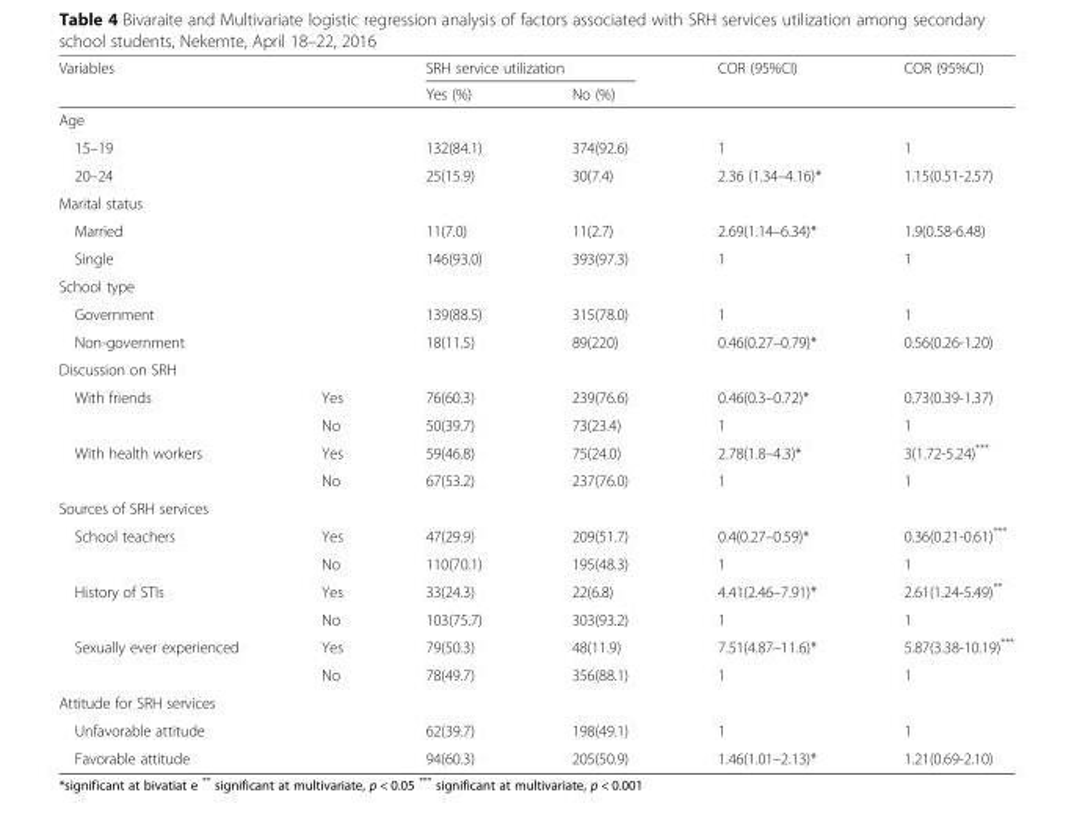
<table><thead><tr><td rowspan="2" colspan="2">Variables</td><td colspan="2">SRH service utilization</td><td rowspan="2">COR (95%CI)</td><td rowspan="2">COR (95%CI)</td></tr><tr><td>Yes (%)</td><td>No (%)</td></tr></thead><tbody><tr><td colspan="6">Age</td></tr><tr><td colspan="2">15–19</td><td>132(84.1)</td><td>374(92.6)</td><td>1</td><td>1</td></tr><tr><td colspan="2">20–24</td><td>25(15.9)</td><td>30(7.4)</td><td>2.36 (1.34–4.16)*</td><td>1.15(0.51-2.57)</td></tr><tr><td colspan="6">Marital status</td></tr><tr><td colspan="2">Married</td><td>11(7.0)</td><td>11(2.7)</td><td>2.69(1.14–6.34)*</td><td>1.9(0.58-6.48)</td></tr><tr><td colspan="2">Single</td><td>146(93.0)</td><td>393(97.3)</td><td>1</td><td>1</td></tr><tr><td colspan="6">School type</td></tr><tr><td colspan="2">Government</td><td>139(88.5)</td><td>315(78.0)</td><td>1</td><td>1</td></tr><tr><td colspan="2">Non-government</td><td>18(11.5)</td><td>89(220)</td><td>0.46(0.27–0.79)*</td><td>0.56(0.26-1.20)</td></tr><tr><td colspan="6">Discussion on SRH</td></tr><tr><td rowspan="2">With friends</td><td>Yes</td><td>76(60.3)</td><td>239(76.6)</td><td>0.46(0.3–0.72)*</td><td>0.73(0.39-1.37)</td></tr><tr><td>No</td><td>50(39.7)</td><td>73(23.4)</td><td>1</td><td>1</td></tr><tr><td rowspan="2">With health workers</td><td>Yes</td><td>59(46.8)</td><td>75(24.0)</td><td>2.78(1.8–4.3)*</td><td>3(1.72-5.24)***</td></tr><tr><td>No</td><td>67(53.2)</td><td>237(76.0)</td><td>1</td><td>1</td></tr><tr><td colspan="6">Sources of SRH services</td></tr><tr><td rowspan="2">School teachers</td><td>Yes</td><td>47(29.9)</td><td>209(51.7)</td><td>0.4(0.27–0.59)*</td><td>0.36(0.21-0.61)***</td></tr><tr><td>No</td><td>110(70.1)</td><td>195(48.3)</td><td>1</td><td>1</td></tr><tr><td rowspan="2">History of STIs</td><td>Yes</td><td>33(24.3)</td><td>22(6.8)</td><td>4.41(2.46–7.91)*</td><td>2.61(1.24-5.49)**</td></tr><tr><td>No</td><td>103(75.7)</td><td>303(93.2)</td><td>1</td><td>1</td></tr><tr><td rowspan="2">Sexually ever experienced</td><td>Yes</td><td>79(50.3)</td><td>48(11.9)</td><td>7.51(4.87–11.6)*</td><td>5.87(3.38-10.19)***</td></tr><tr><td>No</td><td>78(49.7)</td><td>356(88.1)</td><td>1</td><td>1</td></tr><tr><td colspan="6">Attitude for SRH services</td></tr><tr><td colspan="2">Unfavorable attitude</td><td>62(39.7)</td><td>198(49.1)</td><td>1</td><td>1</td></tr><tr><td colspan="2">Favorable attitude</td><td>94(60.3)</td><td>205(50.9)</td><td>1.46(1.01–2.13)*</td><td>1.21(0.69-2.10)</td></tr></tbody></table>